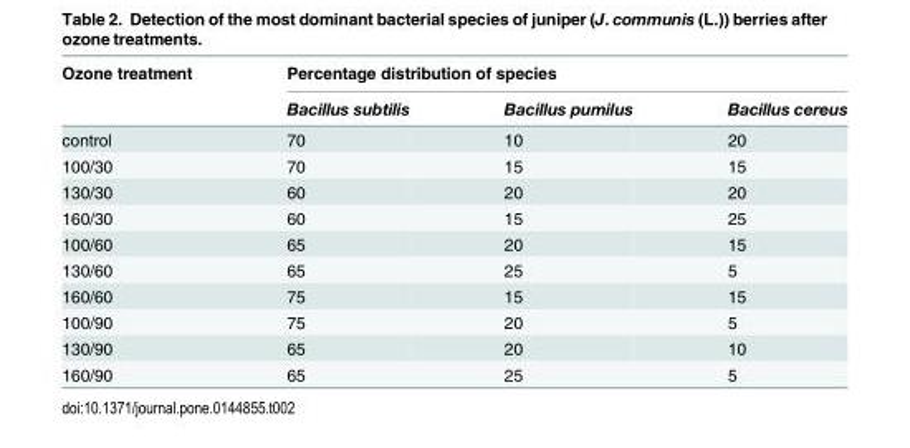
<table><thead><tr><td rowspan="2">Ozone treatment</td><td colspan="3">Percentage distribution of species</td></tr><tr><td>Bacillus subtilis</td><td>Bacillus pumilus</td><td>Bacillus cereus</td></tr></thead><tbody><tr><td>control</td><td>70</td><td>10</td><td>20</td></tr><tr><td>100/30</td><td>70</td><td>15</td><td>15</td></tr><tr><td>130/30</td><td>60</td><td>20</td><td>20</td></tr><tr><td>160/30</td><td>60</td><td>15</td><td>25</td></tr><tr><td>100/60</td><td>65</td><td>20</td><td>15</td></tr><tr><td>130/60</td><td>65</td><td>25</td><td>5</td></tr><tr><td>160/60</td><td>75</td><td>15</td><td>15</td></tr><tr><td>100/90</td><td>75</td><td>20</td><td>5</td></tr><tr><td>130/90</td><td>65</td><td>20</td><td>10</td></tr><tr><td>160/90</td><td>65</td><td>25</td><td>5</td></tr></tbody></table>